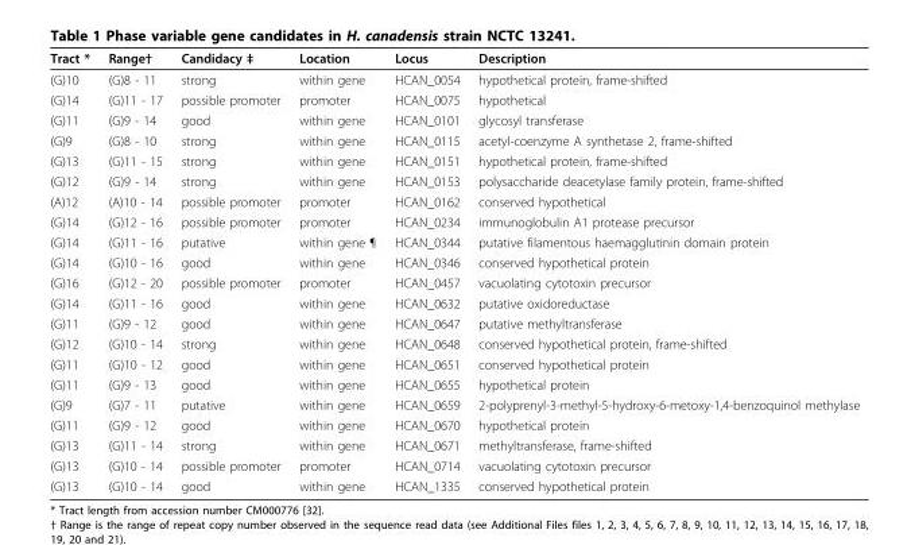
<table><thead><tr><td>Tract *</td><td>Range†</td><td>Candidacy ‡</td><td>Location</td><td>Locus</td><td>Description</td></tr></thead><tbody><tr><td>(G)10</td><td>(G)8 - 11</td><td>strong</td><td>within gene</td><td>HCAN_0054</td><td>hypothetical protein, frame-shifted</td></tr><tr><td>(G)14</td><td>(G)11 - 17</td><td>possible promoter</td><td>promoter</td><td>HCAN_0075</td><td>hypothetical</td></tr><tr><td>(G)11</td><td>(G)9 - 14</td><td>good</td><td>within gene</td><td>HCAN_0101</td><td>glycosyl transferase</td></tr><tr><td>(G)9</td><td>(G)8 - 10</td><td>strong</td><td>within gene</td><td>HCAN_0115</td><td>acetyl-coenzyme A synthetase 2, frame-shifted</td></tr><tr><td>(G)13</td><td>(G)11 - 15</td><td>strong</td><td>within gene</td><td>HCAN_0151</td><td>hypothetical protein, frame-shifted</td></tr><tr><td>(G)12</td><td>(G)9 - 14</td><td>strong</td><td>within gene</td><td>HCAN_0153</td><td>polysaccharide deacetylase family protein, frame-shifted</td></tr><tr><td>(A)12</td><td>(A)10 - 14</td><td>possible promoter</td><td>promoter</td><td>HCAN_0162</td><td>conserved hypothetical</td></tr><tr><td>(G)14</td><td>(G)12 - 16</td><td>possible promoter</td><td>promoter</td><td>HCAN_0234</td><td>immunoglobulin A1 protease precursor</td></tr><tr><td>(G)14</td><td>(G)11 - 16</td><td>putative</td><td>within gene ¶</td><td>HCAN_0344</td><td>putative filamentous haemagglutinin domain protein</td></tr><tr><td>(G)14</td><td>(G)10 - 16</td><td>good</td><td>within gene</td><td>HCAN_0346</td><td>conserved hypothetical protein</td></tr><tr><td>(G)16</td><td>(G)12 - 20</td><td>possible promoter</td><td>promoter</td><td>HCAN_0457</td><td>vacuolating cytotoxin precursor</td></tr><tr><td>(G)14</td><td>(G)11 - 16</td><td>good</td><td>within gene</td><td>HCAN_0632</td><td>putative oxidoreductase</td></tr><tr><td>(G)11</td><td>(G)9 - 12</td><td>good</td><td>within gene</td><td>HCAN_0647</td><td>putative methyltransferase</td></tr><tr><td>(G)12</td><td>(G)10 - 14</td><td>strong</td><td>within gene</td><td>HCAN_0648</td><td>conserved hypothetical protein, frame-shifted</td></tr><tr><td>(G)11</td><td>(G)10 - 12</td><td>good</td><td>within gene</td><td>HCAN_0651</td><td>conserved hypothetical protein</td></tr><tr><td>(G)11</td><td>(G)9 - 13</td><td>good</td><td>within gene</td><td>HCAN_0655</td><td>hypothetical protein</td></tr><tr><td>(G)9</td><td>(G)7 - 11</td><td>putative</td><td>within gene</td><td>HCAN_0659</td><td>2-polyprenyl-3-methyl-5-hydroxy-6-metoxy-1,4-benzoquinol methylase</td></tr><tr><td>(G)11</td><td>(G)9 - 12</td><td>good</td><td>within gene</td><td>HCAN_0670</td><td>hypothetical protein</td></tr><tr><td>(G)13</td><td>(G)11 - 14</td><td>strong</td><td>within gene</td><td>HCAN_0671</td><td>methyltransferase, frame-shifted</td></tr><tr><td>(G)13</td><td>(G)10 - 14</td><td>possible promoter</td><td>promoter</td><td>HCAN_0714</td><td>vacuolating cytotoxin precursor</td></tr><tr><td>(G)13</td><td>(G)10 - 14</td><td>good</td><td>within gene</td><td>HCAN_1335</td><td>conserved hypothetical protein</td></tr></tbody></table>